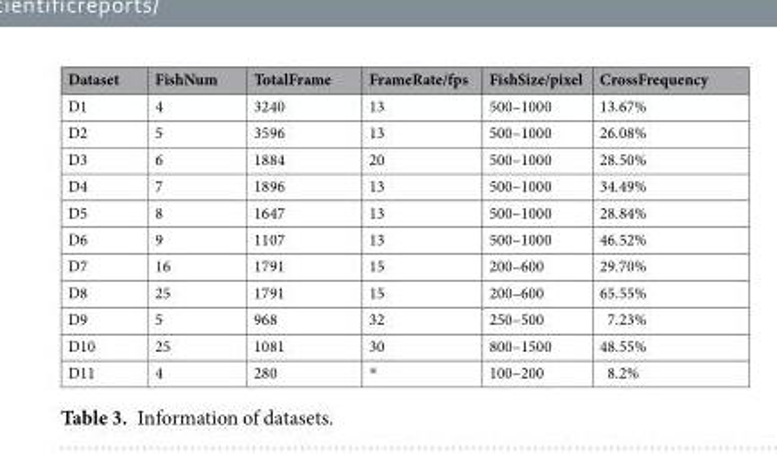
<table><thead><tr><td>Dataset</td><td>FishNum</td><td>TotalFrame</td><td>FrameRate/fps</td><td>FishSize/pixel</td><td>CrossFrequency</td></tr></thead><tbody><tr><td>D1</td><td>4</td><td>3240</td><td>13</td><td>500–1000</td><td>13.67%</td></tr><tr><td>D2</td><td>5</td><td>3596</td><td>13</td><td>500–1000</td><td>26.08%</td></tr><tr><td>D3</td><td>6</td><td>1884</td><td>20</td><td>500–1000</td><td>28.50%</td></tr><tr><td>D4</td><td>7</td><td>1896</td><td>13</td><td>500–1000</td><td>34.49%</td></tr><tr><td>D5</td><td>8</td><td>1647</td><td>13</td><td>500–1000</td><td>28.84%</td></tr><tr><td>D6</td><td>9</td><td>1107</td><td>13</td><td>500–1000</td><td>46.52%</td></tr><tr><td>D7</td><td>16</td><td>1791</td><td>15</td><td>200–600</td><td>29.70%</td></tr><tr><td>D8</td><td>25</td><td>1791</td><td>15</td><td>200–600</td><td>65.55%</td></tr><tr><td>D9</td><td>5</td><td>968</td><td>32</td><td>250–500</td><td>7.23%</td></tr><tr><td>D10</td><td>25</td><td>1081</td><td>30</td><td>800–1500</td><td>48.55%</td></tr><tr><td>D11</td><td>4</td><td>280</td><td>*</td><td>100–200</td><td>8.2%</td></tr></tbody></table>